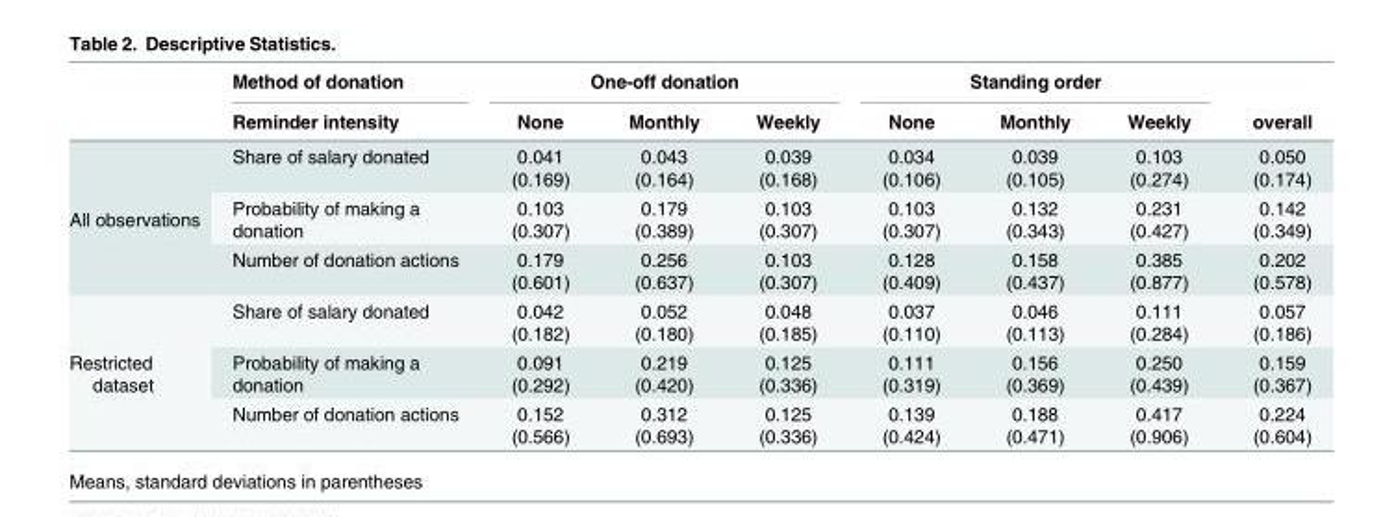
<table><thead><tr><td rowspan="2"></td><td rowspan="2">Method of donation Reminder intensity</td><td colspan="3">One-off donation</td><td colspan="3">Standing order</td><td rowspan="2">overall</td></tr><tr><td>None</td><td>Monthly</td><td>Weekly</td><td>None</td><td>Monthly</td><td>Weekly</td></tr></thead><tbody><tr><td rowspan="3">All observations</td><td>Share of salary donated</td><td>0.041 (0.169)</td><td>0.043 (0.164)</td><td>0.039 (0.168)</td><td>0.034 (0.106)</td><td>0.039 (0.105)</td><td>0.103 (0.274)</td><td>0.050 (0.174)</td></tr><tr><td>Probability of making a donation</td><td>0.103 (0.307)</td><td>0.179 (0.389)</td><td>0.103 (0.307)</td><td>0.103 (0.307)</td><td>0.132 (0.343)</td><td>0.231 (0.427)</td><td>0.142 (0.349)</td></tr><tr><td>Number of donation actions</td><td>0.179 (0.601)</td><td>0.256 (0.637)</td><td>0.103 (0.307)</td><td>0.128 (0.409)</td><td>0.158 (0.437)</td><td>0.385 (0.877)</td><td>0.202 (0.578)</td></tr><tr><td rowspan="3">Restricted dataset</td><td>Share of salary donated</td><td>0.042 (0.182)</td><td>0.052 (0.180)</td><td>0.048 (0.185)</td><td>0.037 (0.110)</td><td>0.046 (0.113)</td><td>0.111 (0.284)</td><td>0.057 (0.186)</td></tr><tr><td>Probability of making a donation</td><td>0.091 (0.292)</td><td>0.219 (0.420)</td><td>0.125 (0.336)</td><td>0.111 (0.319)</td><td>0.156 (0.369)</td><td>0.250 (0.439)</td><td>0.159 (0.367)</td></tr><tr><td>Number of donation actions</td><td>0.152 (0.566)</td><td>0.312 (0.693)</td><td>0.125 (0.336)</td><td>0.139 (0.424)</td><td>0.188 (0.471)</td><td>0.417 (0.906)</td><td>0.224 (0.604)</td></tr></tbody></table>